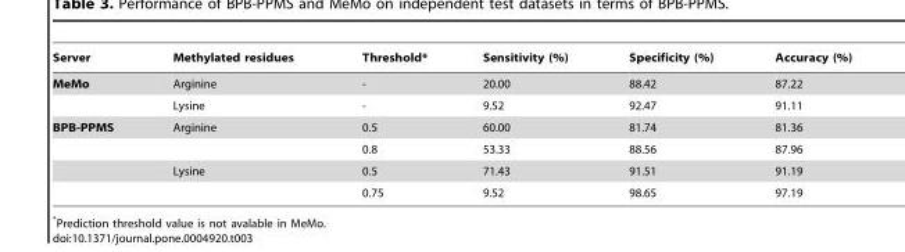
<table><thead><tr><td>Server</td><td>Methylated residues</td><td>Threshold*</td><td>Sensitivity (%)</td><td>Specificity (%)</td><td>Accuracy (%)</td></tr></thead><tbody><tr><td rowspan="2">MeMo</td><td>Arginine</td><td>-</td><td>20.00</td><td>88.42</td><td>87.22</td></tr><tr><td>Lysine</td><td>-</td><td>9.52</td><td>92.47</td><td>91.11</td></tr><tr><td rowspan="4">BPB-PPMS</td><td>Arginine</td><td>0.5</td><td>60.00</td><td>81.74</td><td>81.36</td></tr><tr><td></td><td>0.8</td><td>53.33</td><td>88.56</td><td>87.96</td></tr><tr><td>Lysine</td><td>0.5</td><td>71.43</td><td>91.51</td><td>91.19</td></tr><tr><td></td><td>0.75</td><td>9.52</td><td>98.65</td><td>97.19</td></tr></tbody></table>